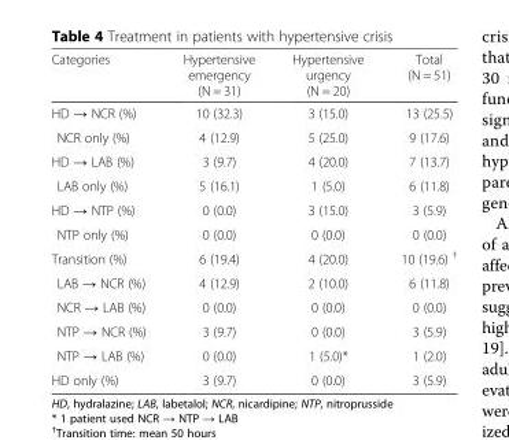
<table><thead><tr><td>Categories</td><td>Hypertensive emergency (N = 31)</td><td>Hypertensive urgency (N = 20)</td><td>Total (N = 51)</td></tr></thead><tbody><tr><td>HD → NCR (%)</td><td>10 (32.3)</td><td>3 (15.0)</td><td>13 (25.5)</td></tr><tr><td>NCR only (%)</td><td>4 (12.9)</td><td>5 (25.0)</td><td>9 (17.6)</td></tr><tr><td>HD → LAB (%)</td><td>3 (9.7)</td><td>4 (20.0)</td><td>7 (13.7)</td></tr><tr><td>LAB only (%)</td><td>5 (16.1)</td><td>1 (5.0)</td><td>6 (11.8)</td></tr><tr><td>HD → NTP (%)</td><td>0 (0.0)</td><td>3 (15.0)</td><td>3 (5.9)</td></tr><tr><td>NTP only (%)</td><td>0 (0.0)</td><td>0 (0.0)</td><td>0 (0.0)</td></tr><tr><td>Transition (%)</td><td>6 (19.4)</td><td>4 (20.0)</td><td>10 (19.6) <sup>†</sup></td></tr><tr><td>LAB → NCR (%)</td><td>4 (12.9)</td><td>2 (10.0)</td><td>6 (11.8)</td></tr><tr><td>NCR → LAB (%)</td><td>0 (0.0)</td><td>0 (0.0)</td><td>0 (0.0)</td></tr><tr><td>NTP → NCR (%)</td><td>3 (9.7)</td><td>0 (0.0)</td><td>3 (5.9)</td></tr><tr><td>NTP → LAB (%)</td><td>0 (0.0)</td><td>1 (5.0)*</td><td>1 (2.0)</td></tr><tr><td>HD only (%)</td><td>3 (9.7)</td><td>0 (0.0)</td><td>3 (5.9)</td></tr></tbody></table>